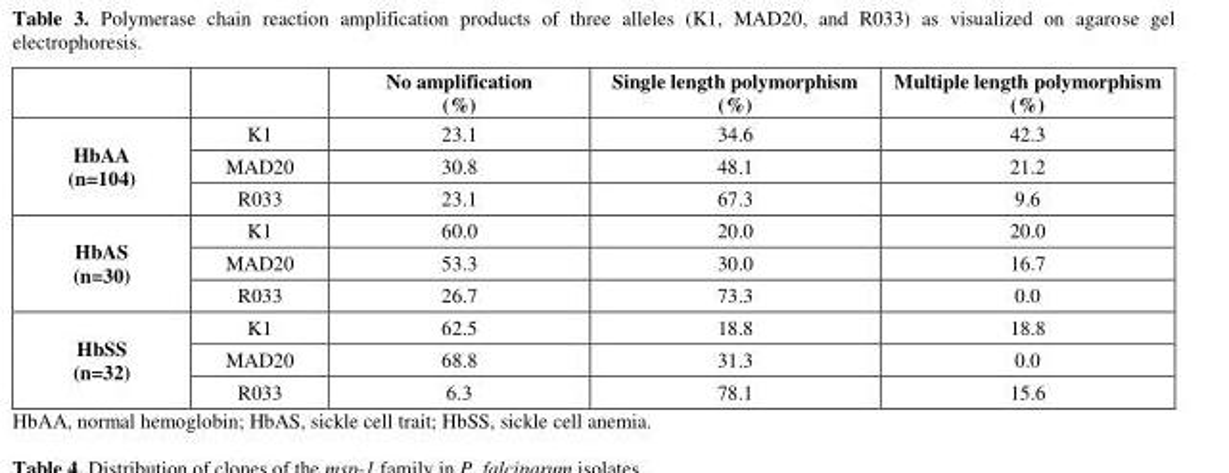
<table><thead><tr><td></td><td></td><td>No amplification (%)</td><td>Single length polymorphism (%)</td><td>Multiple length polymorphism (%)</td></tr></thead><tbody><tr><td rowspan="3">HbAA (n=104)</td><td>K1</td><td>23.1</td><td>34.6</td><td>42.3</td></tr><tr><td>MAD20</td><td>30.8</td><td>48.1</td><td>21.2</td></tr><tr><td>R033</td><td>23.1</td><td>67.3</td><td>9.6</td></tr><tr><td rowspan="3">HbAS (n=30)</td><td>K1</td><td>60.0</td><td>20.0</td><td>20.0</td></tr><tr><td>MAD20</td><td>53.3</td><td>30.0</td><td>16.7</td></tr><tr><td>R033</td><td>26.7</td><td>73.3</td><td>0.0</td></tr><tr><td rowspan="3">HbSS (n=32)</td><td>K1</td><td>62.5</td><td>18.8</td><td>18.8</td></tr><tr><td>MAD20</td><td>68.8</td><td>31.3</td><td>0.0</td></tr><tr><td>R033</td><td>6.3</td><td>78.1</td><td>15.6</td></tr></tbody></table>